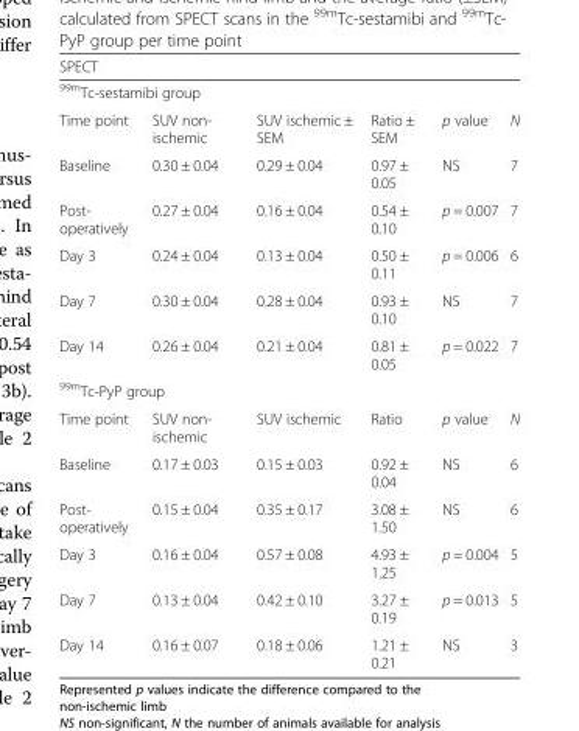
<table><thead><tr><td rowspan="2" colspan="6">SPECT <sup>99m</sup>Tc-sestamibi group</td></tr><tr></tr><tr><td>Time point</td><td>SUV non- ischemic</td><td>SUV ischemic ± SEM</td><td>Ratio ± SEM</td><td>p value</td><td>N</td></tr></thead><tbody><tr><td>Baseline</td><td>0.30 ± 0.04</td><td>0.29 ± 0.04</td><td>0.97 ± 0.05</td><td>NS</td><td>7</td></tr><tr><td>Post- operatively</td><td>0.27 ± 0.04</td><td>0.16 ± 0.04</td><td>0.54 ± 0.10</td><td>p = 0.007</td><td>7</td></tr><tr><td>Day 3</td><td>0.24 ± 0.04</td><td>0.13 ± 0.04</td><td>0.50 ± 0.11</td><td>p = 0.006</td><td>6</td></tr><tr><td>Day 7</td><td>0.30 ± 0.04</td><td>0.28 ± 0.04</td><td>0.93 ± 0.10</td><td>NS</td><td>7</td></tr><tr><td>Day 14</td><td>0.26 ± 0.04</td><td>0.21 ± 0.04</td><td>0.81 ± 0.05</td><td>p = 0.022</td><td>7</td></tr><tr><td colspan="6"><sup>99m</sup>Tc-PyP group</td></tr><tr><td>Time point</td><td>SUV non- ischemic</td><td>SUV ischemic</td><td>Ratio</td><td>p value</td><td>N</td></tr><tr><td>Baseline</td><td>0.17 ± 0.03</td><td>0.15 ± 0.03</td><td>0.92 ± 0.04</td><td>NS</td><td>6</td></tr><tr><td>Post- operatively</td><td>0.15 ± 0.04</td><td>0.35 ± 0.17</td><td>3.08 ± 1.50</td><td>NS</td><td>6</td></tr><tr><td>Day 3</td><td>0.16 ± 0.04</td><td>0.57 ± 0.08</td><td>4.93 ± 1.25</td><td>p = 0.004</td><td>5</td></tr><tr><td>Day 7</td><td>0.13 ± 0.04</td><td>0.42 ± 0.10</td><td>3.27 ± 0.19</td><td>p = 0.013</td><td>5</td></tr><tr><td>Day 14</td><td>0.16 ± 0.07</td><td>0.18 ± 0.06</td><td>1.21 ± 0.21</td><td>NS</td><td>3</td></tr></tbody></table>